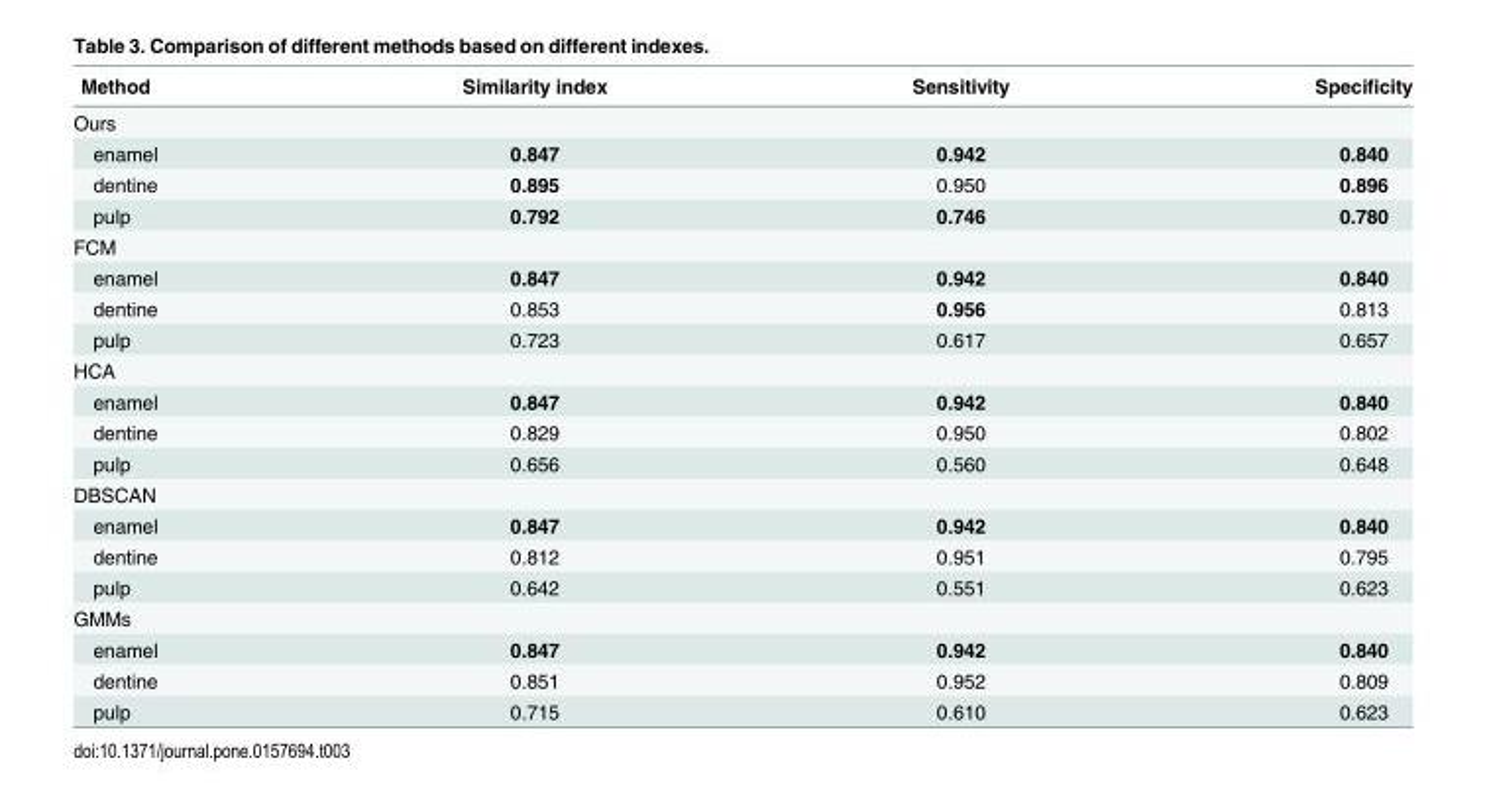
<table><thead><tr><td>Method</td><td>Similarity index</td><td>Sensitivity</td><td>Specificity</td></tr></thead><tbody><tr><td colspan="4">Ours</td></tr><tr><td>enamel</td><td>0.847</td><td>0.942</td><td>0.840</td></tr><tr><td>dentine</td><td>0.895</td><td>0.950</td><td>0.896</td></tr><tr><td>pulp</td><td>0.792</td><td>0.746</td><td>0.780</td></tr><tr><td colspan="4">FCM</td></tr><tr><td>enamel</td><td>0.847</td><td>0.942</td><td>0.840</td></tr><tr><td>dentine</td><td>0.853</td><td>0.956</td><td>0.813</td></tr><tr><td>pulp</td><td>0.723</td><td>0.617</td><td>0.657</td></tr><tr><td colspan="4">HCA</td></tr><tr><td>enamel</td><td>0.847</td><td>0.942</td><td>0.840</td></tr><tr><td>dentine</td><td>0.829</td><td>0.950</td><td>0.802</td></tr><tr><td>pulp</td><td>0.656</td><td>0.560</td><td>0.648</td></tr><tr><td colspan="4">DBSCAN</td></tr><tr><td>enamel</td><td>0.847</td><td>0.942</td><td>0.840</td></tr><tr><td>dentine</td><td>0.812</td><td>0.951</td><td>0.795</td></tr><tr><td>pulp</td><td>0.642</td><td>0.551</td><td>0.623</td></tr><tr><td colspan="4">GMMs</td></tr><tr><td>enamel</td><td>0.847</td><td>0.942</td><td>0.840</td></tr><tr><td>dentine</td><td>0.851</td><td>0.952</td><td>0.809</td></tr><tr><td>pulp</td><td>0.715</td><td>0.610</td><td>0.623</td></tr></tbody></table>